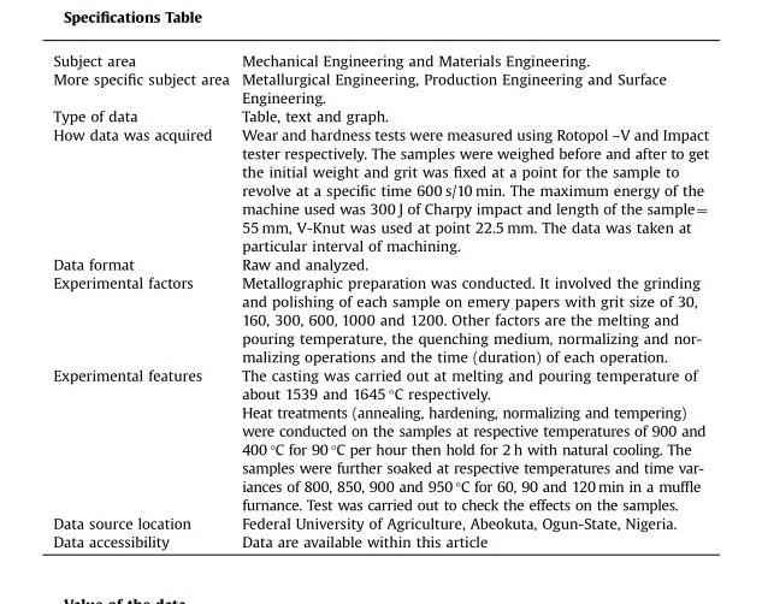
<table><thead><tr><td>Subject area</td><td>Mechanical Engineering and Materials Engineering.</td></tr></thead><tbody><tr><td>More specific subject area</td><td>Metallurgical Engineering, Production Engineering and Surface Engineering.</td></tr><tr><td>Type of data</td><td>Table, text and graph.</td></tr><tr><td>How data was acquired</td><td>Wear and hardness tests were measured using Rotopol –V and Impact tester respectively. The samples were weighed before and after to get the initial weight and grit was fixed at a point for the sample to revolve at a specific time 600 s/10 min. The maximum energy of the machine used was 300 J of Charpy impact and length of the sample= 55 mm, V-Knut was used at point 22.5 mm. The data was taken at particular interval of machining.</td></tr><tr><td>Data format</td><td>Raw and analyzed.</td></tr><tr><td>Experimental factors</td><td>Metallographic preparation was conducted. It involved the grinding and polishing of each sample on emery papers with grit size of 30, 160, 300, 600, 1000 and 1200. Other factors are the melting and pouring temperature, the quenching medium, normalizing and nor- malizing operations and the time (duration) of each operation.</td></tr><tr><td rowspan="2">Experimental features</td><td>The casting was carried out at melting and pouring temperature of about 1539 and 1645 °C respectively.</td></tr><tr><td>Heat treatments (annealing, hardening, normalizing and tempering) were conducted on the samples at respective temperatures of 900 and 400 °C for 90 °C per hour then hold for 2 h with natural cooling. The samples were further soaked at respective temperatures and time var- iances of 800, 850, 900 and 950 °C for 60, 90 and 120 min in a muffle furnance. Test was carried out to check the effects on the samples.</td></tr><tr><td>Data source location</td><td>Federal University of Agriculture, Abeokuta, Ogun-State, Nigeria.</td></tr><tr><td>Data accessibility</td><td>Data are available within this article</td></tr></tbody></table>